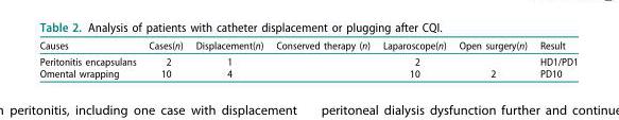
<table><thead><tr><td>Causes</td><td>Cases(n)</td><td>Displacement(n)</td><td>Conserved therapy (n)</td><td>Laparoscope(n)</td><td>Open surgery(n)</td><td>Result</td></tr></thead><tbody><tr><td>Peritonitis encapsulans</td><td>2</td><td>1</td><td></td><td>2</td><td></td><td>HD1/PD1</td></tr><tr><td>Omental wrapping</td><td>10</td><td>4</td><td></td><td>10</td><td>2</td><td>PD10</td></tr></tbody></table>